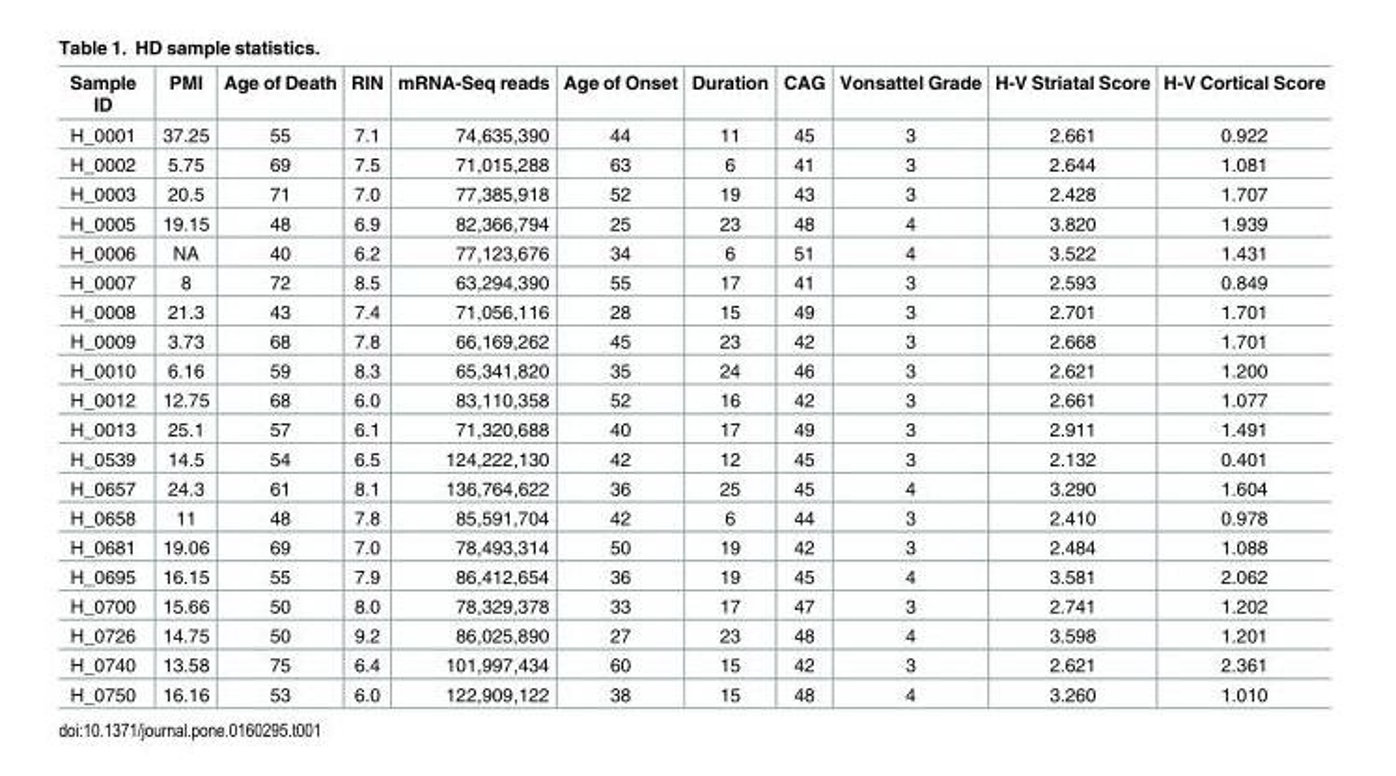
<table><thead><tr><td>Sample ID</td><td>PMI</td><td>Age of Death</td><td>RIN</td><td>mRNA-Seq reads</td><td>Age of Onset</td><td>Duration</td><td>CAG</td><td>Vonsattel Grade</td><td>H-V Striatal Score</td><td>H-V Cortical Score</td></tr></thead><tbody><tr><td>H_0001</td><td>37.25</td><td>55</td><td>7.1</td><td>74,635,390</td><td>44</td><td>11</td><td>45</td><td>3</td><td>2.661</td><td>0.922</td></tr><tr><td>H_0002</td><td>5.75</td><td>69</td><td>7.5</td><td>71,015,288</td><td>63</td><td>6</td><td>41</td><td>3</td><td>2.644</td><td>1.081</td></tr><tr><td>H_0003</td><td>20.5</td><td>71</td><td>7.0</td><td>77,385,918</td><td>52</td><td>19</td><td>43</td><td>3</td><td>2.428</td><td>1.707</td></tr><tr><td>H_0005</td><td>19.15</td><td>48</td><td>6.9</td><td>82,366,794</td><td>25</td><td>23</td><td>48</td><td>4</td><td>3.820</td><td>1.939</td></tr><tr><td>H_0006</td><td>NA</td><td>40</td><td>6.2</td><td>77,123,676</td><td>34</td><td>6</td><td>51</td><td>4</td><td>3.522</td><td>1.431</td></tr><tr><td>H_0007</td><td>8</td><td>72</td><td>8.5</td><td>63,294,390</td><td>55</td><td>17</td><td>41</td><td>3</td><td>2.593</td><td>0.849</td></tr><tr><td>H_0008</td><td>21.3</td><td>43</td><td>7.4</td><td>71,056,116</td><td>28</td><td>15</td><td>49</td><td>3</td><td>2.701</td><td>1.701</td></tr><tr><td>H_0009</td><td>3.73</td><td>68</td><td>7.8</td><td>66,169,262</td><td>45</td><td>23</td><td>42</td><td>3</td><td>2.668</td><td>1.701</td></tr><tr><td>H_0010</td><td>6.16</td><td>59</td><td>8.3</td><td>65,341,820</td><td>35</td><td>24</td><td>46</td><td>3</td><td>2.621</td><td>1.200</td></tr><tr><td>H_0012</td><td>12.75</td><td>68</td><td>6.0</td><td>83,110,358</td><td>52</td><td>16</td><td>42</td><td>3</td><td>2.661</td><td>1.077</td></tr><tr><td>H_0013</td><td>25.1</td><td>57</td><td>6.1</td><td>71,320,688</td><td>40</td><td>17</td><td>49</td><td>3</td><td>2.911</td><td>1.491</td></tr><tr><td>H_0539</td><td>14.5</td><td>54</td><td>6.5</td><td>124,222,130</td><td>42</td><td>12</td><td>45</td><td>3</td><td>2.132</td><td>0.401</td></tr><tr><td>H_0657</td><td>24.3</td><td>61</td><td>8.1</td><td>136,764,622</td><td>36</td><td>25</td><td>45</td><td>4</td><td>3.290</td><td>1.604</td></tr><tr><td>H_0658</td><td>11</td><td>48</td><td>7.8</td><td>85,591,704</td><td>42</td><td>6</td><td>44</td><td>3</td><td>2.410</td><td>0.978</td></tr><tr><td>H_0681</td><td>19.06</td><td>69</td><td>7.0</td><td>78,493,314</td><td>50</td><td>19</td><td>42</td><td>3</td><td>2.484</td><td>1.088</td></tr><tr><td>H_0695</td><td>16.15</td><td>55</td><td>7.9</td><td>86,412,654</td><td>36</td><td>19</td><td>45</td><td>4</td><td>3.581</td><td>2.062</td></tr><tr><td>H_0700</td><td>15.66</td><td>50</td><td>8.0</td><td>78,329,378</td><td>33</td><td>17</td><td>47</td><td>3</td><td>2.741</td><td>1.202</td></tr><tr><td>H_0726</td><td>14.75</td><td>50</td><td>9.2</td><td>86,025,890</td><td>27</td><td>23</td><td>48</td><td>4</td><td>3.598</td><td>1.201</td></tr><tr><td>H_0740</td><td>13.58</td><td>75</td><td>6.4</td><td>101,997,434</td><td>60</td><td>15</td><td>42</td><td>3</td><td>2.621</td><td>2.361</td></tr><tr><td>H_0750</td><td>16.16</td><td>53</td><td>6.0</td><td>122,909,122</td><td>38</td><td>15</td><td>48</td><td>4</td><td>3.260</td><td>1.010</td></tr></tbody></table>